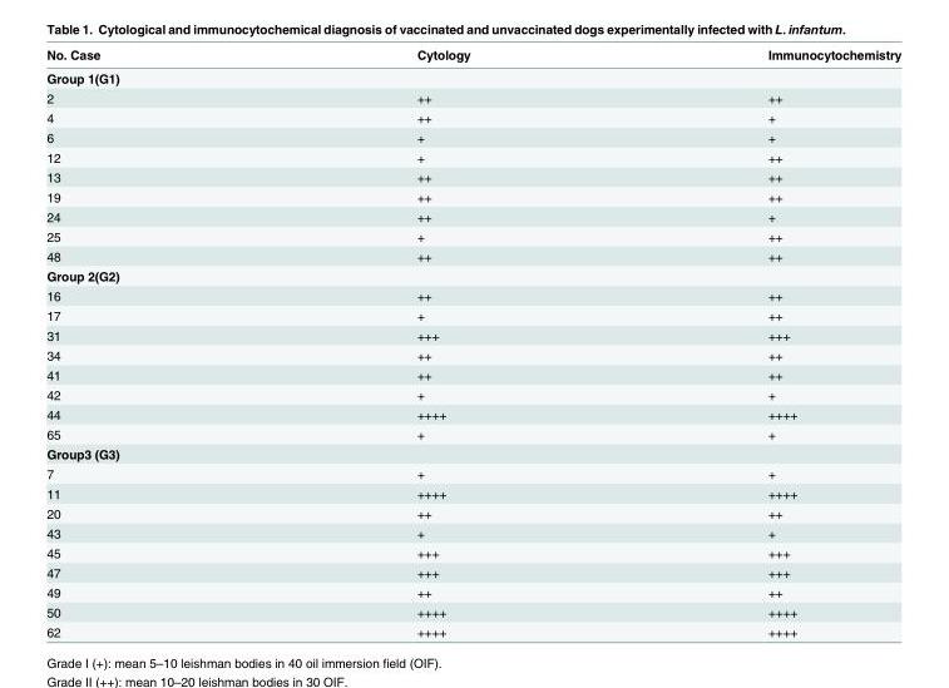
<table><thead><tr><td>No. Case</td><td>Cytology</td><td>Immunocytochemistry</td></tr></thead><tbody><tr><td colspan="3">Group 1(G1)</td></tr><tr><td>2</td><td>++</td><td>++</td></tr><tr><td>4</td><td>++</td><td>+</td></tr><tr><td>6</td><td>+</td><td>+</td></tr><tr><td>12</td><td>+</td><td>++</td></tr><tr><td>13</td><td>++</td><td>++</td></tr><tr><td>19</td><td>++</td><td>++</td></tr><tr><td>24</td><td>++</td><td>+</td></tr><tr><td>25</td><td>+</td><td>++</td></tr><tr><td>48</td><td>++</td><td>++</td></tr><tr><td colspan="3">Group 2(G2)</td></tr><tr><td>16</td><td>++</td><td>++</td></tr><tr><td>17</td><td>+</td><td>++</td></tr><tr><td>31</td><td>+++</td><td>+++</td></tr><tr><td>34</td><td>++</td><td>++</td></tr><tr><td>41</td><td>++</td><td>++</td></tr><tr><td>42</td><td>+</td><td>+</td></tr><tr><td>44</td><td>++++</td><td>++++</td></tr><tr><td>65</td><td>+</td><td>+</td></tr><tr><td colspan="3">Group3 (G3)</td></tr><tr><td>7</td><td>+</td><td>+</td></tr><tr><td>11</td><td>++++</td><td>++++</td></tr><tr><td>20</td><td>++</td><td>++</td></tr><tr><td>43</td><td>+</td><td>+</td></tr><tr><td>45</td><td>+++</td><td>+++</td></tr><tr><td>47</td><td>+++</td><td>+++</td></tr><tr><td>49</td><td>++</td><td>++</td></tr><tr><td>50</td><td>++++</td><td>++++</td></tr><tr><td>62</td><td>++++</td><td>++++</td></tr></tbody></table>